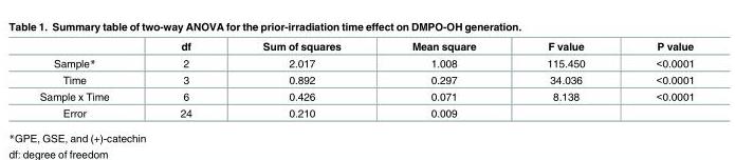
<table><thead><tr><td></td><td>df</td><td>Sum of squares</td><td>Mean square</td><td>F value</td><td>P value</td></tr></thead><tbody><tr><td>Sample*</td><td>2</td><td>2.017</td><td>1.008</td><td>115.450</td><td>&lt;0.0001</td></tr><tr><td>Time</td><td>3</td><td>0.892</td><td>0.297</td><td>34.036</td><td>&lt;0.0001</td></tr><tr><td>Sample x Time</td><td>6</td><td>0.426</td><td>0.071</td><td>8.138</td><td>&lt;0.0001</td></tr><tr><td>Error</td><td>24</td><td>0.210</td><td>0.009</td><td></td><td></td></tr></tbody></table>